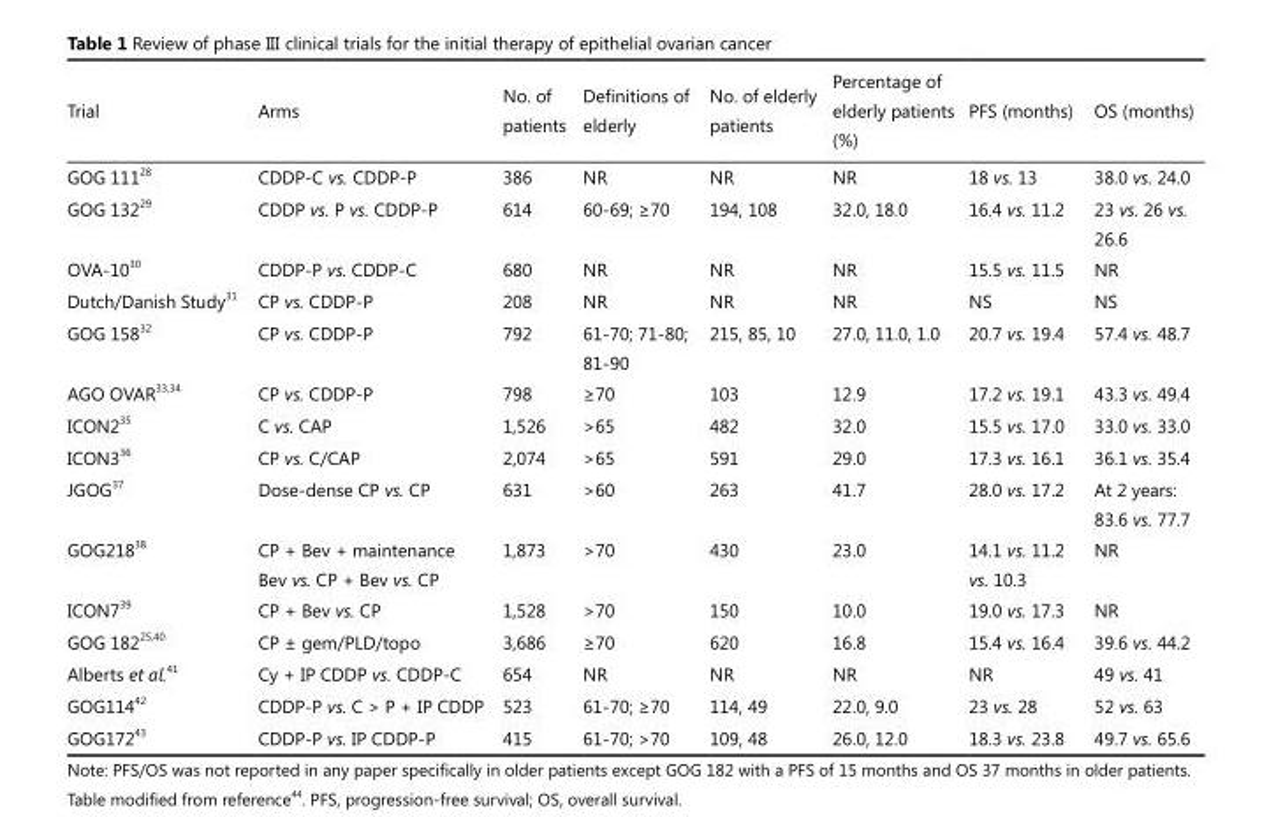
<table><thead><tr><td>Trial</td><td>Arms</td><td>No. of patients</td><td>Definitions of elderly</td><td>No. of elderly patients</td><td>Percentage of elderly patients (%)</td><td>PFS (months)</td><td>OS (months)</td></tr></thead><tbody><tr><td>GOG 111 <sup>28</sup></td><td>CDDP-C vs. CDDP-P</td><td>386</td><td>NR</td><td>NR</td><td>NR</td><td>18 vs. 13</td><td>38.0 vs. 24.0</td></tr><tr><td>GOG 132 <sup>29</sup></td><td>CDDP vs. P vs. CDDP-P</td><td>614</td><td>60-69; ≥70</td><td>194, 108</td><td>32.0, 18.0</td><td>16.4 vs. 11.2</td><td>23 vs. 26 vs. 26.6</td></tr><tr><td>OVA-10 <sup>30</sup></td><td>CDDP-P vs. CDDP-C</td><td>680</td><td>NR</td><td>NR</td><td>NR</td><td>15.5 vs. 11.5</td><td>NR</td></tr><tr><td>Dutch/Danish Study <sup>31</sup></td><td>CP vs. CDDP-P</td><td>208</td><td>NR</td><td>NR</td><td>NR</td><td>NS</td><td>NS</td></tr><tr><td>GOG 158 <sup>32</sup></td><td>CP vs. CDDP-P</td><td>792</td><td>61-70; 71-80; 81-90</td><td>215, 85, 10</td><td>27.0, 11.0, 1.0</td><td>20.7 vs. 19.4</td><td>57.4 vs. 48.7</td></tr><tr><td>AGO OVAR <sup>33,34</sup></td><td>CP vs. CDDP-P</td><td>798</td><td>≥70</td><td>103</td><td>12.9</td><td>17.2 vs. 19.1</td><td>43.3 vs. 49.4</td></tr><tr><td>ICON2 <sup>35</sup></td><td>C vs. CAP</td><td>1,526</td><td>&gt;65</td><td>482</td><td>32.0</td><td>15.5 vs. 17.0</td><td>33.0 vs. 33.0</td></tr><tr><td>ICON3 <sup>36</sup></td><td>CP vs. C/CAP</td><td>2,074</td><td>&gt;65</td><td>591</td><td>29.0</td><td>17.3 vs. 16.1</td><td>36.1 vs. 35.4</td></tr><tr><td>JGOG <sup>37</sup></td><td>Dose-dense CP vs. CP</td><td>631</td><td>&gt;60</td><td>263</td><td>41.7</td><td>28.0 vs. 17.2</td><td>At 2 years: 83.6 vs. 77.7</td></tr><tr><td>GOG218 <sup>38</sup></td><td>CP + Bev + maintenance Bev vs. CP + Bev vs. CP</td><td>1,873</td><td>&gt;70</td><td>430</td><td>23.0</td><td>14.1 vs. 11.2 vs. 10.3</td><td>NR</td></tr><tr><td>ICON7 <sup>39</sup></td><td>CP + Bev vs. CP</td><td>1,528</td><td>&gt;70</td><td>150</td><td>10.0</td><td>19.0 vs. 17.3</td><td>NR</td></tr><tr><td>GOG 182 <sup>25,40</sup></td><td>CP ± gem/PLD/topo</td><td>3,686</td><td>≥70</td><td>620</td><td>16.8</td><td>15.4 vs. 16.4</td><td>39.6 vs. 44.2</td></tr><tr><td>Alberts et al. <sup>41</sup></td><td>Cy + IP CDDP vs. CDDP-C</td><td>654</td><td>NR</td><td>NR</td><td>NR</td><td>NR</td><td>49 vs. 41</td></tr><tr><td>GOG114 <sup>42</sup></td><td>CDDP-P vs. C &gt; P + IP CDDP</td><td>523</td><td>61-70; ≥70</td><td>114, 49</td><td>22.0, 9.0</td><td>23 vs. 28</td><td>52 vs. 63</td></tr><tr><td>GOG172 <sup>43</sup></td><td>CDDP-P vs. IP CDDP-P</td><td>415</td><td>61-70; &gt;70</td><td>109, 48</td><td>26.0, 12.0</td><td>18.3 vs. 23.8</td><td>49.7 vs. 65.6</td></tr></tbody></table>